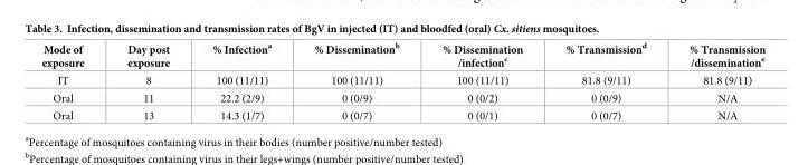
<table><thead><tr><td>Mode of exposure</td><td>Day post exposure</td><td>% Infection<sup>a</sup></td><td>% Dissemination<sup>b</sup></td><td>% Dissemination /infection<sup>c</sup></td><td>% Transmission<sup>d</sup></td><td>% Transmission /dissemination<sup>e</sup></td></tr></thead><tbody><tr><td>IT</td><td>8</td><td>100 (11/11)</td><td>100 (11/11)</td><td>100 (11/11)</td><td>81.8 (9/11)</td><td>81.8 (9/11)</td></tr><tr><td>Oral</td><td>11</td><td>22.2 (2/9)</td><td>0 (0/9)</td><td>0 (0/2)</td><td>0 (0/9)</td><td>N/A</td></tr><tr><td>Oral</td><td>13</td><td>14.3 (1/7)</td><td>0 (0/7)</td><td>0 (0/1)</td><td>0 (0/7)</td><td>N/A</td></tr></tbody></table>